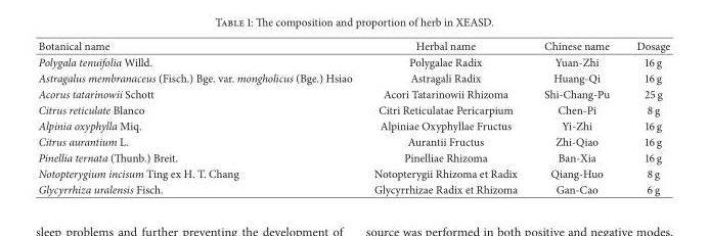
<table><thead><tr><td>Botanical name</td><td>Herbal name</td><td>Chinese name</td><td>Dosage</td></tr></thead><tbody><tr><td>Polygala tenuifolia Willd.</td><td>Polygalae Radix</td><td>Yuan-Zhi</td><td>16 g</td></tr><tr><td>Astragalus membranaceus (Fisch.) Bge. var. mongholicus (Bge.) Hsiao</td><td>Astragali Radix</td><td>Huang-Qi</td><td>16 g</td></tr><tr><td>Acorus tatarinowii Schott</td><td>Acori Tatarinowii Rhizoma</td><td>Shi-Chang-Pu</td><td>25 g</td></tr><tr><td>Citrus reticulate Blanco</td><td>Citri Reticulatae Pericarpium</td><td>Chen-Pi</td><td>8 g</td></tr><tr><td>Alpinia oxyphylla Miq.</td><td>Alpiniae Oxyphyllae Fructus</td><td>Yi-Zhi</td><td>16 g</td></tr><tr><td>Citrus aurantium L.</td><td>Aurantii Fructus</td><td>Zhi-Qiao</td><td>16 g</td></tr><tr><td>Pinellia ternata (Thunb.) Breit.</td><td>Pinelliae Rhizoma</td><td>Ban-Xia</td><td>16 g</td></tr><tr><td>Notopterygium incisum Ting ex H. T. Chang</td><td>Notopterygii Rhizoma et Radix</td><td>Qiang-Huo</td><td>8 g</td></tr><tr><td>Glycyrrhiza uralensis Fisch.</td><td>Glycyrrhizae Radix et Rhizoma</td><td>Gan-Cao</td><td>6 g</td></tr></tbody></table>